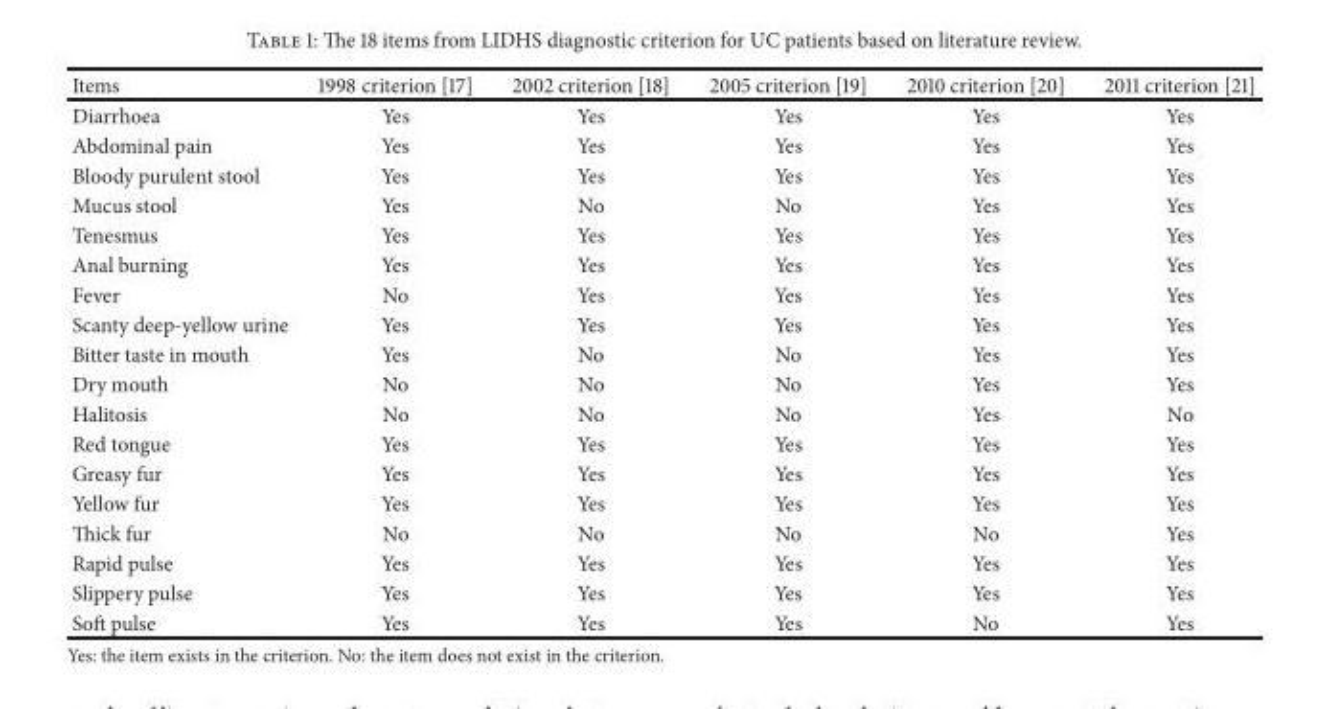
<table><thead><tr><td>Items</td><td>1998 criterion [17]</td><td>2002 criterion [18]</td><td>2005 criterion [19]</td><td>2010 criterion [20]</td><td>2011 criterion [21]</td></tr></thead><tbody><tr><td>Diarrhoea</td><td>Yes</td><td>Yes</td><td>Yes</td><td>Yes</td><td>Yes</td></tr><tr><td>Abdominal pain</td><td>Yes</td><td>Yes</td><td>Yes</td><td>Yes</td><td>Yes</td></tr><tr><td>Bloody purulent stool</td><td>Yes</td><td>Yes</td><td>Yes</td><td>Yes</td><td>Yes</td></tr><tr><td>Mucus stool</td><td>Yes</td><td>No</td><td>No</td><td>Yes</td><td>Yes</td></tr><tr><td>Tenesmus</td><td>Yes</td><td>Yes</td><td>Yes</td><td>Yes</td><td>Yes</td></tr><tr><td>Anal burning</td><td>Yes</td><td>Yes</td><td>Yes</td><td>Yes</td><td>Yes</td></tr><tr><td>Fever</td><td>No</td><td>Yes</td><td>Yes</td><td>Yes</td><td>Yes</td></tr><tr><td>Scanty deep-yellow urine</td><td>Yes</td><td>Yes</td><td>Yes</td><td>Yes</td><td>Yes</td></tr><tr><td>Bitter taste in mouth</td><td>Yes</td><td>No</td><td>No</td><td>Yes</td><td>Yes</td></tr><tr><td>Dry mouth</td><td>No</td><td>No</td><td>No</td><td>Yes</td><td>Yes</td></tr><tr><td>Halitosis</td><td>No</td><td>No</td><td>No</td><td>Yes</td><td>No</td></tr><tr><td>Red tongue</td><td>Yes</td><td>Yes</td><td>Yes</td><td>Yes</td><td>Yes</td></tr><tr><td>Greasy fur</td><td>Yes</td><td>Yes</td><td>Yes</td><td>Yes</td><td>Yes</td></tr><tr><td>Yellow fur</td><td>Yes</td><td>Yes</td><td>Yes</td><td>Yes</td><td>Yes</td></tr><tr><td>Thick fur</td><td>No</td><td>No</td><td>No</td><td>No</td><td>Yes</td></tr><tr><td>Rapid pulse</td><td>Yes</td><td>Yes</td><td>Yes</td><td>Yes</td><td>Yes</td></tr><tr><td>Slippery pulse</td><td>Yes</td><td>Yes</td><td>Yes</td><td>Yes</td><td>Yes</td></tr><tr><td>Soft pulse</td><td>Yes</td><td>Yes</td><td>Yes</td><td>No</td><td>Yes</td></tr></tbody></table>